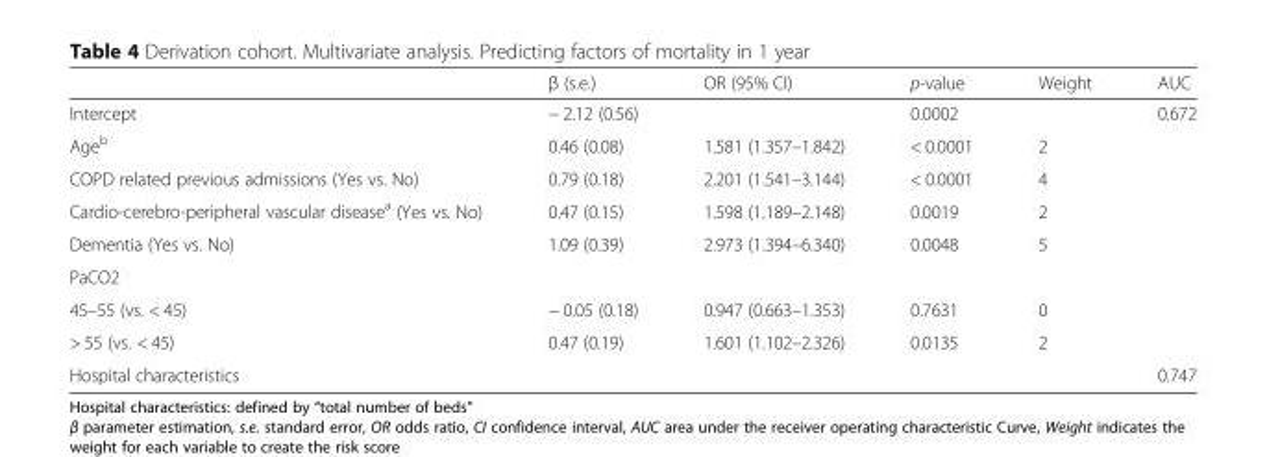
<table><thead><tr><td></td><td>β (s.e.)</td><td>OR (95% CI)</td><td>p-value</td><td>Weight</td><td>AUC</td></tr></thead><tbody><tr><td>Intercept</td><td>− 2.12 (0.56)</td><td></td><td>0.0002</td><td></td><td rowspan="8">0.672</td></tr><tr><td>Age<sup>b</sup></td><td>0.46 (0.08)</td><td>1.581 (1.357–1.842)</td><td>&lt; 0.0001</td><td>2</td></tr><tr><td>COPD related previous admissions (Yes vs. No)</td><td>0.79 (0.18)</td><td>2.201 (1.541–3.144)</td><td>&lt; 0.0001</td><td>4</td></tr><tr><td>Cardio-cerebro-peripheral vascular disease<sup>a</sup> (Yes vs. No)</td><td>0.47 (0.15)</td><td>1.598 (1.189–2.148)</td><td>0.0019</td><td>2</td></tr><tr><td>Dementia (Yes vs. No)</td><td>1.09 (0.39)</td><td>2.973 (1.394–6.340)</td><td>0.0048</td><td>5</td></tr><tr><td colspan="5">PaCO2</td></tr><tr><td>45–55 (vs. &lt; 45)</td><td>− 0.05 (0.18)</td><td>0.947 (0.663–1.353)</td><td>0.7631</td><td>0</td></tr><tr><td>&gt; 55 (vs. &lt; 45)</td><td>0.47 (0.19)</td><td>1.601 (1.102–2.326)</td><td>0.0135</td><td>2</td></tr><tr><td>Hospital characteristics</td><td></td><td></td><td></td><td></td><td>0.747</td></tr></tbody></table>